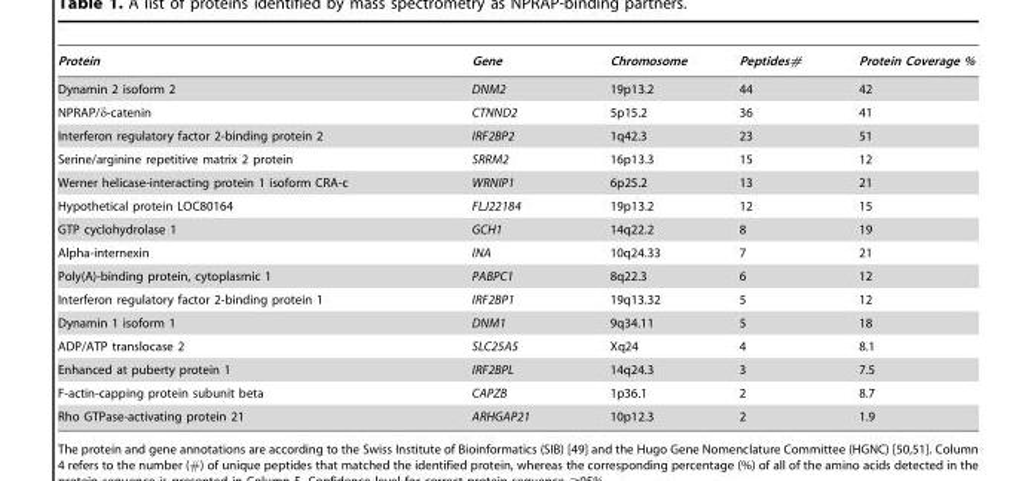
<table><thead><tr><td>Protein</td><td>Gene</td><td>Chromosome</td><td>Peptides#</td><td>Protein Coverage %</td></tr></thead><tbody><tr><td>Dynamin 2 isoform 2</td><td>DNM2</td><td>19p13.2</td><td>44</td><td>42</td></tr><tr><td>NPRAP/δ-catenin</td><td>CTNND2</td><td>5p15.2</td><td>36</td><td>41</td></tr><tr><td>Interferon regulatory factor 2-binding protein 2</td><td>IRF2BP2</td><td>1q42.3</td><td>23</td><td>51</td></tr><tr><td>Serine/arginine repetitive matrix 2 protein</td><td>SRRM2</td><td>16p13.3</td><td>15</td><td>12</td></tr><tr><td>Werner helicase-interacting protein 1 isoform CRA-c</td><td>WRNIP1</td><td>6p25.2</td><td>13</td><td>21</td></tr><tr><td>Hypothetical protein LOC80164</td><td>FLJ22184</td><td>19p13.2</td><td>12</td><td>15</td></tr><tr><td>GTP cyclohydrolase 1</td><td>GCH1</td><td>14q22.2</td><td>8</td><td>19</td></tr><tr><td>Alpha-internexin</td><td>INA</td><td>10q24.33</td><td>7</td><td>21</td></tr><tr><td>Poly(A)-binding protein, cytoplasmic 1</td><td>PABPC1</td><td>8q22.3</td><td>6</td><td>12</td></tr><tr><td>Interferon regulatory factor 2-binding protein 1</td><td>IRF2BP1</td><td>19q13.32</td><td>5</td><td>12</td></tr><tr><td>Dynamin 1 isoform 1</td><td>DNM1</td><td>9q34.11</td><td>5</td><td>18</td></tr><tr><td>ADP/ATP translocase 2</td><td>SLC25A5</td><td>Xq24</td><td>4</td><td>8.1</td></tr><tr><td>Enhanced at puberty protein 1</td><td>IRF2BPL</td><td>14q24.3</td><td>3</td><td>7.5</td></tr><tr><td>F-actin-capping protein subunit beta</td><td>CAPZB</td><td>1p36.1</td><td>2</td><td>8.7</td></tr><tr><td>Rho GTPase-activating protein 21</td><td>ARHGAP21</td><td>10p12.3</td><td>2</td><td>1.9</td></tr></tbody></table>